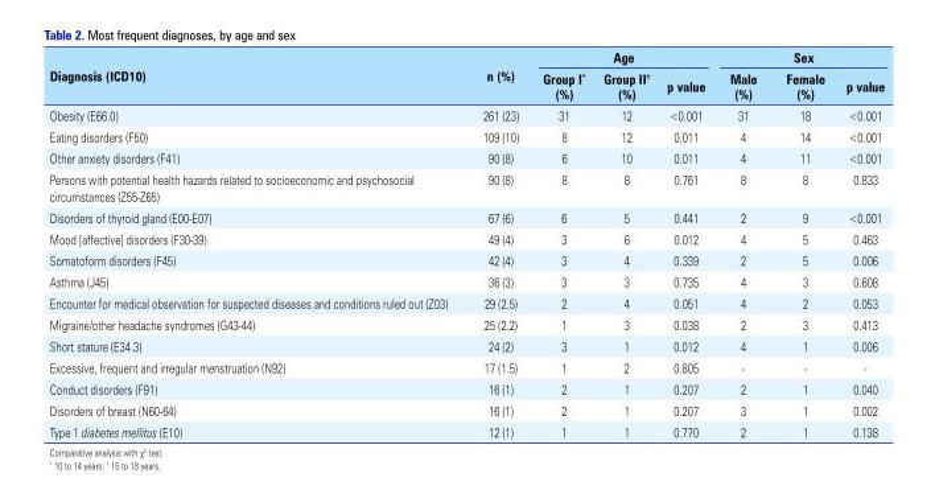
<table><thead><tr><td rowspan="2">Diagnosis (ICD10)</td><td rowspan="2">n (%)</td><td colspan="3">Age</td><td colspan="3">Sex</td></tr><tr><td>Group I* (%)</td><td>Group II† (%)</td><td>p value</td><td>Male (%)</td><td>Female (%)</td><td>p value</td></tr></thead><tbody><tr><td>Obesity (E66.0)</td><td>261 (23)</td><td>31</td><td>12</td><td>&lt;0.001</td><td>31</td><td>18</td><td>&lt;0.001</td></tr><tr><td>Eating disorders (F50)</td><td>109 (10)</td><td>8</td><td>12</td><td>0.011</td><td>4</td><td>14</td><td>&lt;0.001</td></tr><tr><td>Other anxiety disorders (F41)</td><td>90 (8)</td><td>6</td><td>10</td><td>0.011</td><td>4</td><td>11</td><td>&lt;0.001</td></tr><tr><td>Persons with potential health hazards related to socioeconomic and psychosocial circumstances (Z55-Z65)</td><td>90 (8)</td><td>8</td><td>8</td><td>0.761</td><td>8</td><td>8</td><td>0.833</td></tr><tr><td>Disorders of thyroid gland (E00-E07)</td><td>67 (6)</td><td>6</td><td>5</td><td>0.441</td><td>2</td><td>9</td><td>&lt;0.001</td></tr><tr><td>Mood [affective] disorders (F30-39)</td><td>49 (4)</td><td>3</td><td>6</td><td>0.012</td><td>4</td><td>5</td><td>0.463</td></tr><tr><td>Somatoform disorders (F45)</td><td>42 (4)</td><td>3</td><td>4</td><td>0.339</td><td>2</td><td>5</td><td>0.006</td></tr><tr><td>Asthma (J45)</td><td>36 (3)</td><td>3</td><td>3</td><td>0.735</td><td>4</td><td>3</td><td>0.608</td></tr><tr><td>Encounter for medical observation for suspected diseases and conditions ruled out (Z03)</td><td>29 (2.5)</td><td>2</td><td>4</td><td>0.051</td><td>4</td><td>2</td><td>0.053</td></tr><tr><td>Migraine/other headache syndromes (G43-44)</td><td>25 (2.2)</td><td>1</td><td>3</td><td>0.038</td><td>2</td><td>3</td><td>0.413</td></tr><tr><td>Short stature (E34.3)</td><td>24 (2)</td><td>3</td><td>1</td><td>0.012</td><td>4</td><td>1</td><td>0.006</td></tr><tr><td>Excessive, frequent and irregular menstruation (N92)</td><td>17 (1.5)</td><td>1</td><td>2</td><td>0.805</td><td>-</td><td>-</td><td>-</td></tr><tr><td>Conduct disorders (F91)</td><td>16 (1)</td><td>2</td><td>1</td><td>0.207</td><td>2</td><td>1</td><td>0.040</td></tr><tr><td>Disorders of breast (N60-64)</td><td>16 (1)</td><td>2</td><td>1</td><td>0.207</td><td>3</td><td>1</td><td>0.002</td></tr><tr><td>Type 1 diabetes mellitus (E10)</td><td>12 (1)</td><td>1</td><td>1</td><td>0.770</td><td>2</td><td>1</td><td>0.138</td></tr></tbody></table>